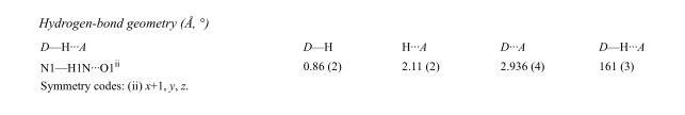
<table><tbody><tr><td>D—H···A</td><td>D—H</td><td>H···A</td><td>D···A</td><td>D—H···A</td></tr><tr><td>N1—H1N···O1<sup>ii</sup></td><td>0.86 (2)</td><td>2.11 (2)</td><td>2.936 (4)</td><td>161 (3)</td></tr></tbody></table>